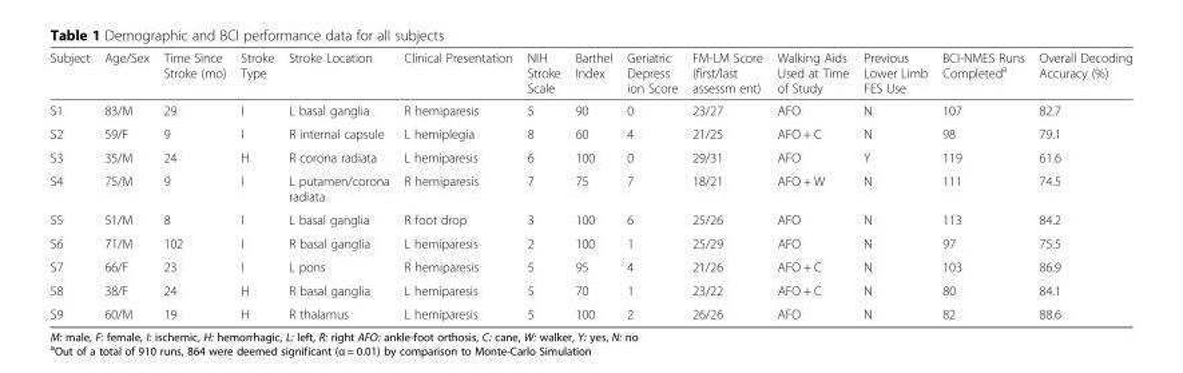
<table><thead><tr><td>Subject</td><td>Age/Sex</td><td>Time Since Stroke (mo)</td><td>Stroke Type</td><td>Stroke Location</td><td>Clinical Presentation</td><td>NIH Stroke Scale</td><td>Barthel Index</td><td>Geriatric Depress ion Score</td><td>FM-LM Score (first/last assessm ent)</td><td>Walking Aids Used at Time of Study</td><td>Previous Lower Limb FES Use</td><td>BCI-NMES Runs Completed<sup>a</sup></td><td>Overall Decoding Accuracy (%)</td></tr></thead><tbody><tr><td>S1</td><td>83/M</td><td>29</td><td>I</td><td>L basal ganglia</td><td>R hemiparesis</td><td>5</td><td>90</td><td>0</td><td>23/27</td><td>AFO</td><td>N</td><td>107</td><td>82.7</td></tr><tr><td>S2</td><td>59/F</td><td>9</td><td>I</td><td>R internal capsule</td><td>L hemiplegia</td><td>8</td><td>60</td><td>4</td><td>21/25</td><td>AFO + C</td><td>N</td><td>98</td><td>79.1</td></tr><tr><td>S3</td><td>35/M</td><td>24</td><td>H</td><td>R corona radiata</td><td>L hemiparesis</td><td>6</td><td>100</td><td>0</td><td>29/31</td><td>AFO</td><td>Y</td><td>119</td><td>61.6</td></tr><tr><td>S4</td><td>75/M</td><td>9</td><td>I</td><td>L putamen/corona radiata</td><td>R hemiparesis</td><td>7</td><td>75</td><td>7</td><td>18/21</td><td>AFO + W</td><td>N</td><td>111</td><td>74.5</td></tr><tr><td>S5</td><td>51/M</td><td>8</td><td>I</td><td>L basal ganglia</td><td>R foot drop</td><td>3</td><td>100</td><td>6</td><td>25/26</td><td>AFO</td><td>N</td><td>113</td><td>84.2</td></tr><tr><td>S6</td><td>71/M</td><td>102</td><td>I</td><td>R basal ganglia</td><td>L hemiparesis</td><td>2</td><td>100</td><td>1</td><td>25/29</td><td>AFO</td><td>N</td><td>97</td><td>75.5</td></tr><tr><td>S7</td><td>66/F</td><td>23</td><td>I</td><td>L pons</td><td>R hemiparesis</td><td>5</td><td>95</td><td>4</td><td>21/26</td><td>AFO + C</td><td>N</td><td>103</td><td>86.9</td></tr><tr><td>S8</td><td>38/F</td><td>24</td><td>H</td><td>R basal ganglia</td><td>L hemiparesis</td><td>5</td><td>70</td><td>1</td><td>23/22</td><td>AFO + C</td><td>N</td><td>80</td><td>84.1</td></tr><tr><td>S9</td><td>60/M</td><td>19</td><td>H</td><td>R thalamus</td><td>L hemiparesis</td><td>5</td><td>100</td><td>2</td><td>26/26</td><td>AFO</td><td>N</td><td>82</td><td>88.6</td></tr></tbody></table>